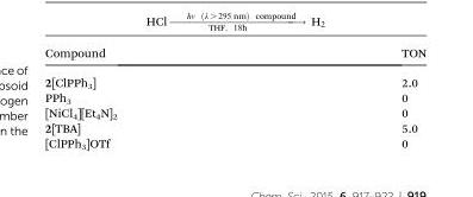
<table><thead><tr><td>Compound</td><td>TON</td></tr></thead><tbody><tr><td>2[ClPPh<sub>3</sub>]</td><td>2.0</td></tr><tr><td>PPh<sub>3</sub></td><td>0</td></tr><tr><td>[NiCl<sub>4</sub>][Et<sub>4</sub>N]<sub>2</sub></td><td>0</td></tr><tr><td>2[TBA]</td><td>5.0</td></tr><tr><td>[ClPPh<sub>3</sub>]OTf</td><td>0</td></tr></tbody></table>